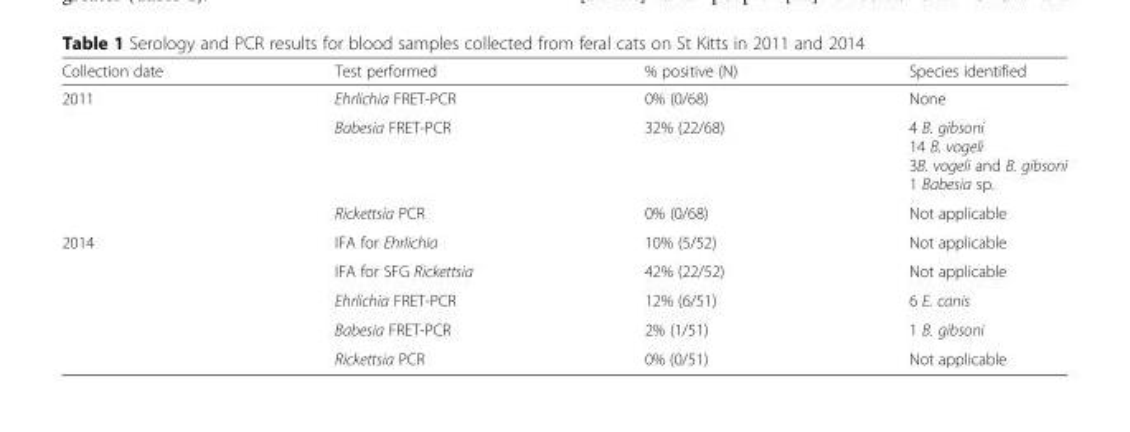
<table><thead><tr><td>Collection date</td><td>Test performed</td><td>% positive (N)</td><td>Species identified</td></tr></thead><tbody><tr><td rowspan="3">2011</td><td>Ehrlichia FRET-PCR</td><td>0% (0/68)</td><td>None</td></tr><tr><td>Babesia FRET-PCR</td><td>32% (22/68)</td><td>4 B. gibsoni 14 B. vogeli 3B. vogeli and B. gibsoni 1 Babesia sp.</td></tr><tr><td>Rickettsia PCR</td><td>0% (0/68)</td><td>Not applicable</td></tr><tr><td rowspan="5">2014</td><td>IFA for Ehrlichia</td><td>10% (5/52)</td><td>Not applicable</td></tr><tr><td>IFA for SFG Rickettsia</td><td>42% (22/52)</td><td>Not applicable</td></tr><tr><td>Ehrlichia FRET-PCR</td><td>12% (6/51)</td><td>6 E. canis</td></tr><tr><td>Babesia FRET-PCR</td><td>2% (1/51)</td><td>1 B. gibsoni</td></tr><tr><td>Rickettsia PCR</td><td>0% (0/51)</td><td>Not applicable</td></tr></tbody></table>